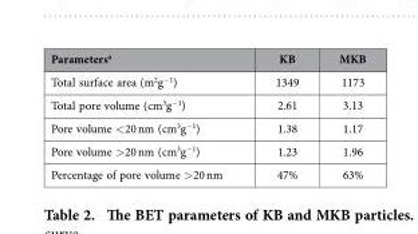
<table><thead><tr><td>Parameters<sup>a</sup></td><td>KB</td><td>MKB</td></tr></thead><tbody><tr><td>Total surface area (m<sup>2</sup>g<sup>−1</sup>)</td><td>1349</td><td>1173</td></tr><tr><td>Total pore volume (cm<sup>3</sup>g<sup>−1</sup>)</td><td>2.61</td><td>3.13</td></tr><tr><td>Pore volume <sub>&lt;20 nm</sub> (cm<sup>3</sup>g<sup>−1</sup>)</td><td>1.38</td><td>1.17</td></tr><tr><td>Pore volume <sub>&gt;20 nm</sub> (cm<sup>3</sup>g<sup>−1</sup>)</td><td>1.23</td><td>1.96</td></tr><tr><td>Percentage of pore volume <sub>&gt;20 nm</sub></td><td>47%</td><td>63%</td></tr></tbody></table>